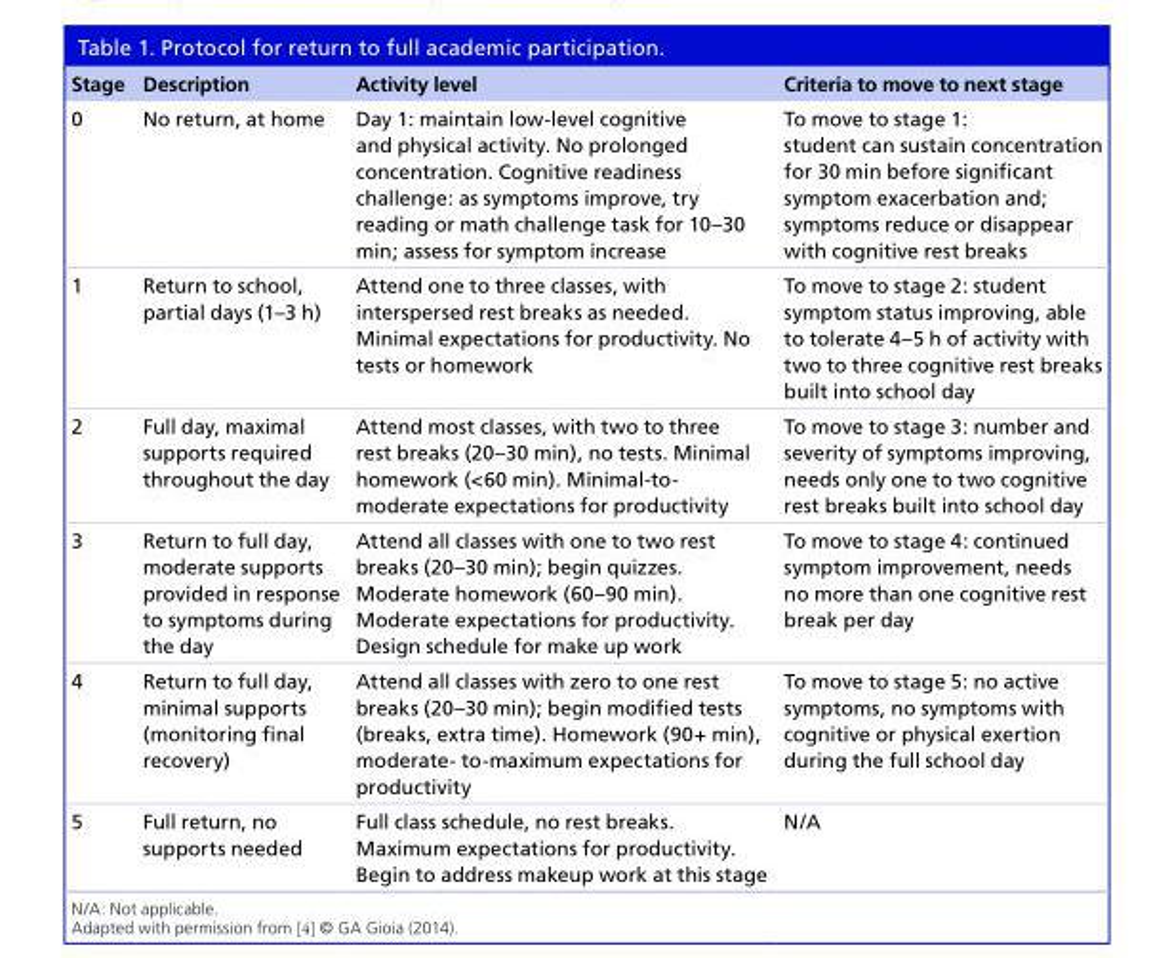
<table><thead><tr><td>Stage</td><td>Description</td><td>Activity level</td><td>Criteria to move to next stage</td></tr></thead><tbody><tr><td>0</td><td>No return, at home</td><td>Day 1: maintain low-level cognitive and physical activity. No prolonged concentration. Cognitive readiness challenge: as symptoms improve, try reading or math challenge task for 10–30 min; assess for symptom increase</td><td>To move to stage 1: student can sustain concentration for 30 min before significant symptom exacerbation and; symptoms reduce or disappear with cognitive rest breaks</td></tr><tr><td>1</td><td>Return to school, partial days (1–3 h)</td><td>Attend one to three classes, with interspersed rest breaks as needed. Minimal expectations for productivity. No tests or homework</td><td>To move to stage 2: student symptom status improving, able to tolerate 4–5 h of activity with two to three cognitive rest breaks built into school day</td></tr><tr><td>2</td><td>Full day, maximal supports required throughout the day</td><td>Attend most classes, with two to three rest breaks (20–30 min), no tests. Minimal homework (&lt;60 min). Minimal-to- moderate expectations for productivity</td><td>To move to stage 3: number and severity of symptoms improving, needs only one to two cognitive rest breaks built into school day</td></tr><tr><td>3</td><td>Return to full day, moderate supports provided in response to symptoms during the day</td><td>Attend all classes with one to two rest breaks (20–30 min); begin quizzes. Moderate homework (60–90 min). Moderate expectations for productivity. Design schedule for make up work</td><td>To move to stage 4: continued symptom improvement, needs no more than one cognitive rest break per day</td></tr><tr><td>4</td><td>Return to full day, minimal supports (monitoring final recovery)</td><td>Attend all classes with zero to one rest breaks (20–30 min); begin modified tests (breaks, extra time). Homework (90+ min), moderate- to-maximum expectations for productivity</td><td>To move to stage 5: no active symptoms, no symptoms with cognitive or physical exertion during the full school day</td></tr><tr><td>5</td><td>Full return, no supports needed</td><td>Full class schedule, no rest breaks. Maximum expectations for productivity. Begin to address makeup work at this stage</td><td>N/A</td></tr></tbody></table>